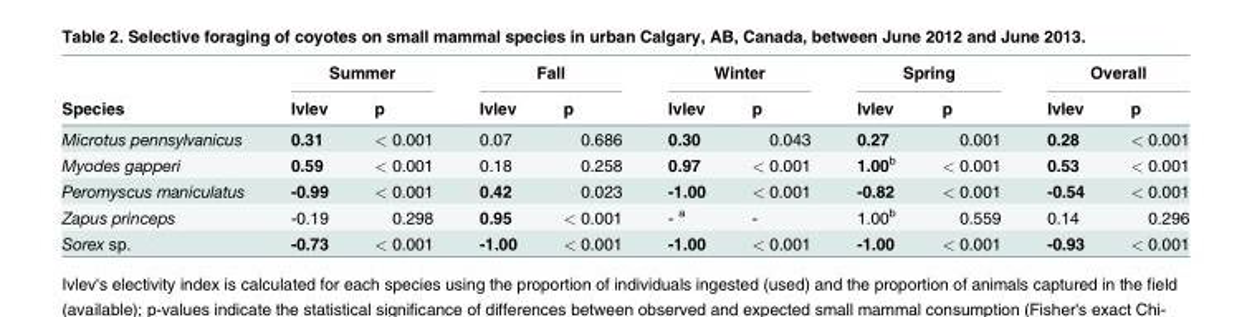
<table><thead><tr><td rowspan="2">Species</td><td colspan="2">Summer</td><td colspan="2">Fall</td><td colspan="2">Winter</td><td colspan="2">Spring</td><td colspan="2">Overall</td></tr><tr><td>Ivlev</td><td>p</td><td>Ivlev</td><td>p</td><td>Ivlev</td><td>p</td><td>Ivlev</td><td>p</td><td>Ivlev</td><td>p</td></tr></thead><tbody><tr><td>Microtus pennsylvanicus</td><td>0.31</td><td>&lt; 0.001</td><td>0.07</td><td>0.686</td><td>0.30</td><td>0.043</td><td>0.27</td><td>0.001</td><td>0.28</td><td>&lt; 0.001</td></tr><tr><td>Myodes gapperi</td><td>0.59</td><td>&lt; 0.001</td><td>0.18</td><td>0.258</td><td>0.97</td><td>&lt; 0.001</td><td>1.00<sup>b</sup></td><td>&lt; 0.001</td><td>0.53</td><td>&lt; 0.001</td></tr><tr><td>Peromyscus maniculatus</td><td>-0.99</td><td>&lt; 0.001</td><td>0.42</td><td>0.023</td><td>-1.00</td><td>&lt; 0.001</td><td>-0.82</td><td>&lt; 0.001</td><td>-0.54</td><td>&lt; 0.001</td></tr><tr><td>Zapus princeps</td><td>-0.19</td><td>0.298</td><td>0.95</td><td>&lt; 0.001</td><td>- <sup>a</sup></td><td>-</td><td>1.00<sup>b</sup></td><td>0.559</td><td>0.14</td><td>0.296</td></tr><tr><td>Sorex sp.</td><td>-0.73</td><td>&lt; 0.001</td><td>-1.00</td><td>&lt; 0.001</td><td>-1.00</td><td>&lt; 0.001</td><td>-1.00</td><td>&lt; 0.001</td><td>-0.93</td><td>&lt; 0.001</td></tr></tbody></table>